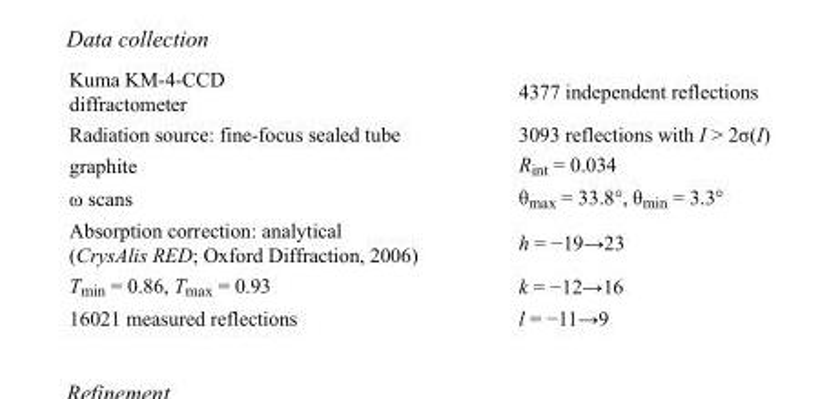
<table><tbody><tr><td>Kuma KM-4-CCD diffractometer</td><td>4377 independent reflections</td></tr><tr><td>Radiation source: fine-focus sealed tube</td><td>3093 reflections with I &gt; 2σ(I)</td></tr><tr><td>graphite</td><td>R<sub>int</sub> = 0.034</td></tr><tr><td>ω scans</td><td>θ<sub>max</sub> = 33.8°, θ<sub>min</sub> = 3.3°</td></tr><tr><td>Absorption correction: analytical (CrysAlis RED; Oxford Diffraction, 2006)</td><td>h = −19→23</td></tr><tr><td>T<sub>min</sub> = 0.86, T<sub>max</sub> = 0.93</td><td>k = −12→16</td></tr><tr><td>16021 measured reflections</td><td>l = −11→9</td></tr></tbody></table>